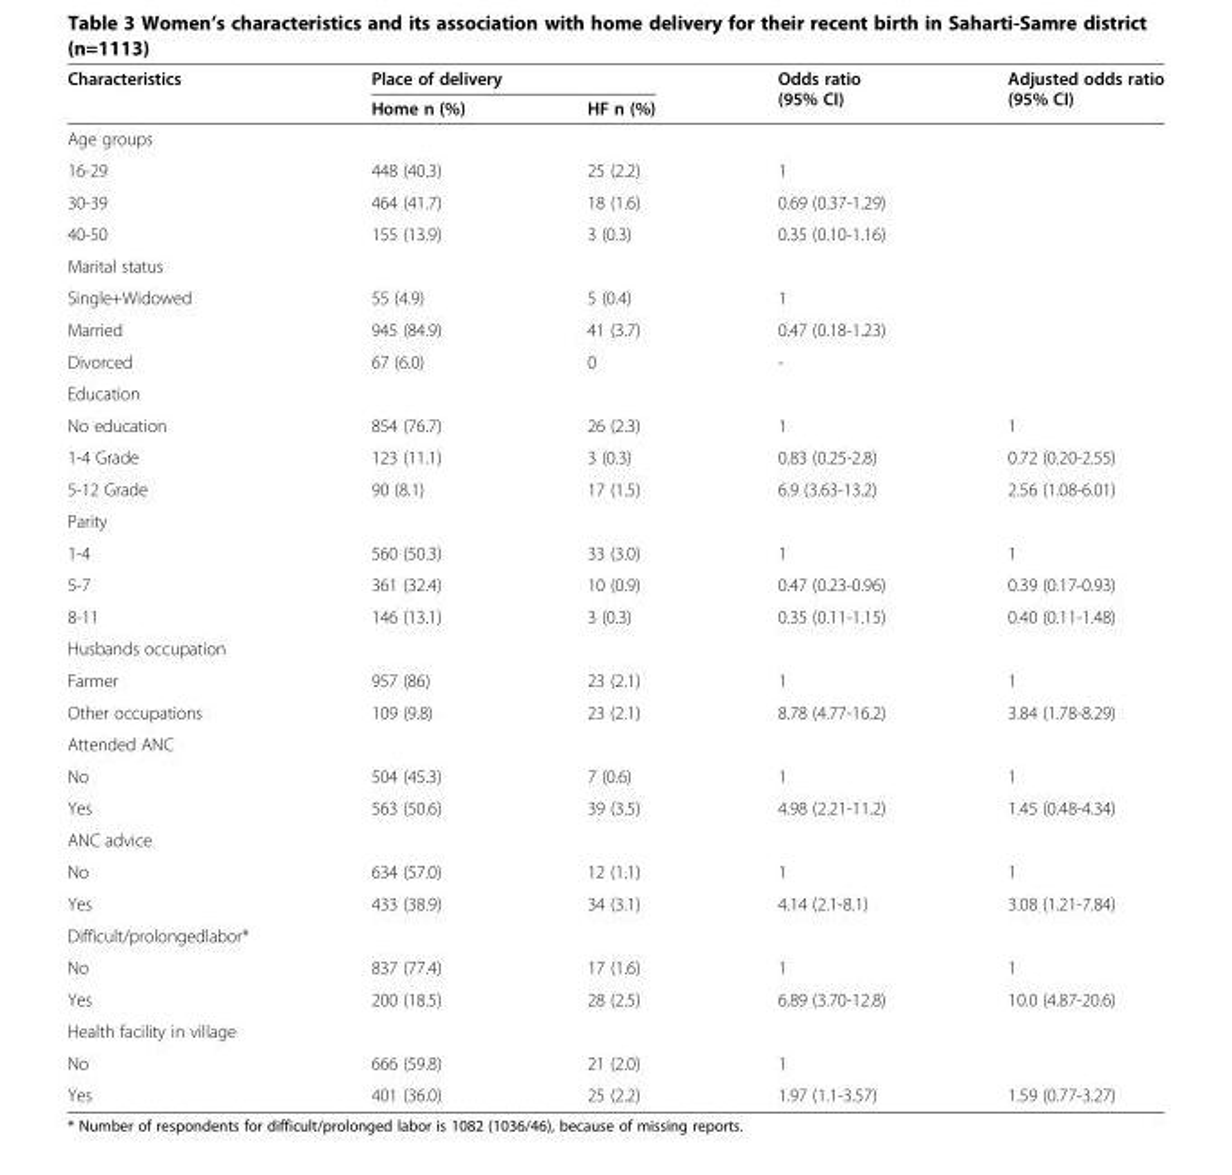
<table><thead><tr><td rowspan="2">Characteristics</td><td colspan="2">Place of delivery</td><td rowspan="2">Odds ratio (95% CI)</td><td rowspan="2">Adjusted odds ratio (95% CI)</td></tr><tr><td>Home n (%)</td><td>HF n (%)</td></tr></thead><tbody><tr><td colspan="5">Age groups</td></tr><tr><td>16-29</td><td>448 (40.3)</td><td>25 (2.2)</td><td>1</td><td></td></tr><tr><td>30-39</td><td>464 (41.7)</td><td>18 (1.6)</td><td>0.69 (0.37-1.29)</td><td></td></tr><tr><td>40-50</td><td>155 (13.9)</td><td>3 (0.3)</td><td>0.35 (0.10-1.16)</td><td></td></tr><tr><td colspan="5">Marital status</td></tr><tr><td>Single+Widowed</td><td>55 (4.9)</td><td>5 (0.4)</td><td>1</td><td></td></tr><tr><td>Married</td><td>945 (84.9)</td><td>41 (3.7)</td><td>0.47 (0.18-1.23)</td><td></td></tr><tr><td>Divorced</td><td>67 (6.0)</td><td>0</td><td>-</td><td></td></tr><tr><td colspan="5">Education</td></tr><tr><td>No education</td><td>854 (76.7)</td><td>26 (2.3)</td><td>1</td><td>1</td></tr><tr><td>1-4 Grade</td><td>123 (11.1)</td><td>3 (0.3)</td><td>0.83 (0.25-2.8)</td><td>0.72 (0.20-2.55)</td></tr><tr><td>5-12 Grade</td><td>90 (8.1)</td><td>17 (1.5)</td><td>6.9 (3.63-13.2)</td><td>2.56 (1.08-6.01)</td></tr><tr><td colspan="5">Parity</td></tr><tr><td>1-4</td><td>560 (50.3)</td><td>33 (3.0)</td><td>1</td><td>1</td></tr><tr><td>5-7</td><td>361 (32.4)</td><td>10 (0.9)</td><td>0.47 (0.23-0.96)</td><td>0.39 (0.17-0.93)</td></tr><tr><td>8-11</td><td>146 (13.1)</td><td>3 (0.3)</td><td>0.35 (0.11-1.15)</td><td>0.40 (0.11-1.48)</td></tr><tr><td colspan="5">Husbands occupation</td></tr><tr><td>Farmer</td><td>957 (86)</td><td>23 (2.1)</td><td>1</td><td>1</td></tr><tr><td>Other occupations</td><td>109 (9.8)</td><td>23 (2.1)</td><td>8.78 (4.77-16.2)</td><td>3.84 (1.78-8.29)</td></tr><tr><td colspan="5">Attended ANC</td></tr><tr><td>No</td><td>504 (45.3)</td><td>7 (0.6)</td><td>1</td><td>1</td></tr><tr><td>Yes</td><td>563 (50.6)</td><td>39 (3.5)</td><td>4.98 (2.21-11.2)</td><td>1.45 (0.48-4.34)</td></tr><tr><td colspan="5">ANC advice</td></tr><tr><td>No</td><td>634 (57.0)</td><td>12 (1.1)</td><td>1</td><td>1</td></tr><tr><td>Yes</td><td>433 (38.9)</td><td>34 (3.1)</td><td>4.14 (2.1-8.1)</td><td>3.08 (1.21-7.84)</td></tr><tr><td colspan="5">Difficult/prolongedlabor*</td></tr><tr><td>No</td><td>837 (77.4)</td><td>17 (1.6)</td><td>1</td><td>1</td></tr><tr><td>Yes</td><td>200 (18.5)</td><td>28 (2.5)</td><td>6.89 (3.70-12.8)</td><td>10.0 (4.87-20.6)</td></tr><tr><td colspan="5">Health facility in village</td></tr><tr><td>No</td><td>666 (59.8)</td><td>21 (2.0)</td><td>1</td><td></td></tr><tr><td>Yes</td><td>401 (36.0)</td><td>25 (2.2)</td><td>1.97 (1.1-3.57)</td><td>1.59 (0.77-3.27)</td></tr></tbody></table>